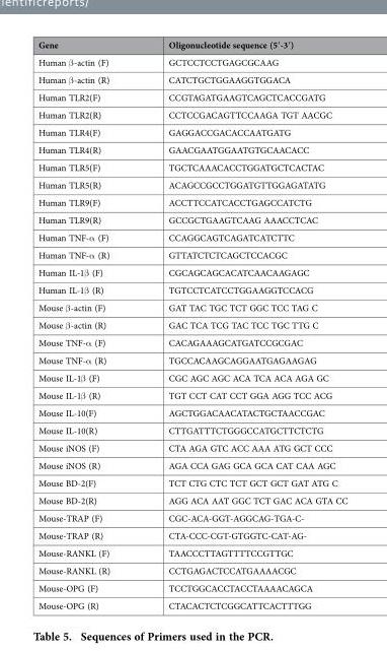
<table><thead><tr><td>Gene</td><td>Oligonucleotide sequence (5′-3′)</td></tr></thead><tbody><tr><td>Human β -actin (F)</td><td>GCTCCTCCTGAGCGCAAG</td></tr><tr><td>Human β -actin (R)</td><td>CATCTGCTGGAAGGTGGACA</td></tr><tr><td>Human TLR2(F)</td><td>CCGTAGATGAAGTCAGCTCACCGATG</td></tr><tr><td>Human TLR2(R)</td><td>CCTCCGACAGTTCCAAGA TGT AACGC</td></tr><tr><td>Human TLR4(F)</td><td>GAGGACCGACACCAATGATG</td></tr><tr><td>Human TLR4(R)</td><td>GAACGAATGGAATGTGCAACACC</td></tr><tr><td>Human TLR5(F)</td><td>TGCTCAAACACCTGGATGCTCACTAC</td></tr><tr><td>Human TLR5(R)</td><td>ACAGCCGCCTGGATGTTGGAGATATG</td></tr><tr><td>Human TLR9(F)</td><td>ACCTTCCATCACCTGAGCCATCTG</td></tr><tr><td>Human TLR9(R)</td><td>GCCGCTGAAGTCAAG AAACCTCAC</td></tr><tr><td>Human TNF-α (F)</td><td>CCAGGCAGTCAGATCATCTTC</td></tr><tr><td>Human TNF-α (R)</td><td>GTTATCTCTCAGCTCCACGC</td></tr><tr><td>Human IL-1β (F)</td><td>CGCAGCAGCACATCAACAAGAGC</td></tr><tr><td>Human IL-1β (R)</td><td>TGTCCTCATCCTGGAAGGTCCACG</td></tr><tr><td>Mouse β -actin (F)</td><td>GAT TAC TGC TCT GGC TCC TAG C</td></tr><tr><td>Mouse β -actin (R)</td><td>GAC TCA TCG TAC TCC TGC TTG C</td></tr><tr><td>Mouse TNF-α (F)</td><td>CACAGAAAGCATGATCCGCGAC</td></tr><tr><td>Mouse TNF-α (R)</td><td>TGCCACAAGCAGGAATGAGAAGAG</td></tr><tr><td>Mouse IL-1β (F)</td><td>CGC AGC AGC ACA TCA ACA AGA GC</td></tr><tr><td>Mouse IL-1β (R)</td><td>TGT CCT CAT CCT GGA AGG TCC ACG</td></tr><tr><td>Mouse IL-10(F)</td><td>AGCTGGACAACATACTGCTAACCGAC</td></tr><tr><td>Mouse IL-10(R)</td><td>CTTGATTTCTGGGCCATGCTTCTCTG</td></tr><tr><td>Mouse iNOS (F)</td><td>CTA AGA GTC ACC AAA ATG GCT CCC</td></tr><tr><td>Mouse iNOS (R)</td><td>AGA CCA GAG GCA GCA CAT CAA AGC</td></tr><tr><td>Mouse BD-2(F)</td><td>TCT CTG CTC TCT GCT GCT GAT ATG C</td></tr><tr><td>Mouse BD-2(R)</td><td>AGG ACA AAT GGC TCT GAC ACA GTA CC</td></tr><tr><td>Mouse-TRAP (F)</td><td>CGC-ACA-GGT-AGGCAG-TGA-C-</td></tr><tr><td>Mouse-TRAP (R)</td><td>CTA-CCC-CGT-GTGGTC-CAT-AG-</td></tr><tr><td>Mouse-RANKL (F)</td><td>TAACCCTTAGTTTTCCGTTGC</td></tr><tr><td>Mouse-RANKL (R)</td><td>CCTGAGACTCCATGAAAACGC</td></tr><tr><td>Mouse-OPG (F)</td><td>TCCTGGCACCTACCTAAAACAGCA</td></tr><tr><td>Mouse-OPG (R)</td><td>CTACACTCTCGGCATTCACTTTGG</td></tr></tbody></table>